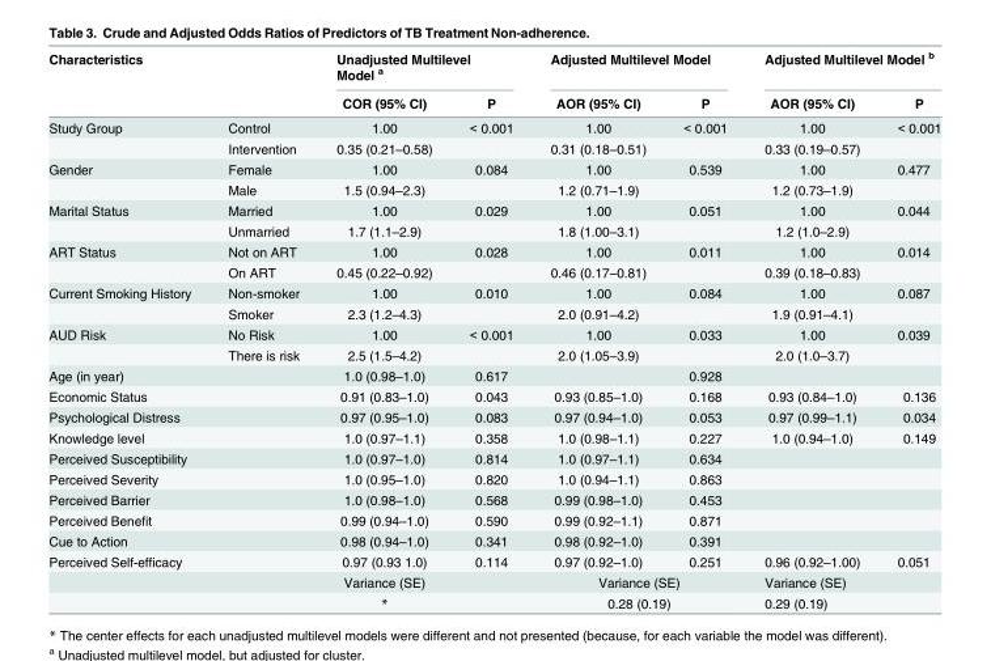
<table><thead><tr><td rowspan="2" colspan="2">Characteristics</td><td colspan="2">Unadjusted Multilevel Model <sup>a</sup></td><td colspan="2">Adjusted Multilevel Model</td><td colspan="2">Adjusted Multilevel Model <sup>b</sup></td></tr><tr><td rowspan="2">COR (95% CI) 1.00</td><td rowspan="2">P &lt; 0.001</td><td rowspan="2">AOR (95% CI) 1.00</td><td rowspan="2">P &lt; 0.001</td><td rowspan="2">AOR (95% CI) 1.00</td><td rowspan="2">P &lt; 0.001</td></tr><tr><td>Study Group</td><td>Control</td></tr></thead><tbody><tr><td></td><td>Intervention</td><td>0.35 (0.21–0.58)</td><td></td><td>0.31 (0.18–0.51)</td><td></td><td>0.33 (0.19–0.57)</td><td></td></tr><tr><td rowspan="2">Gender</td><td>Female</td><td>1.00</td><td>0.084</td><td>1.00</td><td>0.539</td><td>1.00</td><td>0.477</td></tr><tr><td>Male</td><td>1.5 (0.94–2.3)</td><td></td><td>1.2 (0.71–1.9)</td><td></td><td>1.2 (0.73–1.9)</td><td></td></tr><tr><td rowspan="2">Marital Status</td><td>Married</td><td>1.00</td><td>0.029</td><td>1.00</td><td>0.051</td><td>1.00</td><td>0.044</td></tr><tr><td>Unmarried</td><td>1.7 (1.1–2.9)</td><td></td><td>1.8 (1.00–3.1)</td><td></td><td>1.2 (1.0–2.9)</td><td></td></tr><tr><td rowspan="2">ART Status</td><td>Not on ART</td><td>1.00</td><td>0.028</td><td>1.00</td><td>0.011</td><td>1.00</td><td>0.014</td></tr><tr><td>On ART</td><td>0.45 (0.22–0.92)</td><td></td><td>0.46 (0.17–0.81)</td><td></td><td>0.39 (0.18–0.83)</td><td></td></tr><tr><td rowspan="2">Current Smoking History</td><td>Non-smoker</td><td>1.00</td><td>0.010</td><td>1.00</td><td>0.084</td><td>1.00</td><td>0.087</td></tr><tr><td>Smoker</td><td>2.3 (1.2–4.3)</td><td></td><td>2.0 (0.91–4.2)</td><td></td><td>1.9 (0.91–4.1)</td><td></td></tr><tr><td rowspan="2">AUD Risk</td><td>No Risk</td><td>1.00</td><td>&lt; 0.001</td><td>1.00</td><td>0.033</td><td>1.00</td><td>0.039</td></tr><tr><td>There is risk</td><td>2.5 (1.5–4.2)</td><td></td><td>2.0 (1.05–3.9)</td><td></td><td>2.0 (1.0–3.7)</td><td></td></tr><tr><td>Age (in year)</td><td></td><td>1.0 (0.98–1.0)</td><td>0.617</td><td></td><td>0.928</td><td></td><td></td></tr><tr><td>Economic Status</td><td></td><td>0.91 (0.83–1.0)</td><td>0.043</td><td>0.93 (0.85–1.0)</td><td>0.168</td><td>0.93 (0.84–1.0)</td><td>0.136</td></tr><tr><td>Psychological Distress</td><td></td><td>0.97 (0.95–1.0)</td><td>0.083</td><td>0.97 (0.94–1.0)</td><td>0.053</td><td>0.97 (0.99–1.1)</td><td>0.034</td></tr><tr><td>Knowledge level</td><td></td><td>1.0 (0.97–1.1)</td><td>0.358</td><td>1.0 (0.98–1.1)</td><td>0.227</td><td>1.0 (0.94–1.0)</td><td>0.149</td></tr><tr><td>Perceived Susceptibility</td><td></td><td>1.0 (0.97–1.0)</td><td>0.814</td><td>1.0 (0.97–1.1)</td><td>0.634</td><td></td><td></td></tr><tr><td>Perceived Severity</td><td></td><td>1.0 (0.95–1.0)</td><td>0.820</td><td>1.0 (0.94–1.1)</td><td>0.863</td><td></td><td></td></tr><tr><td>Perceived Barrier</td><td></td><td>1.0 (0.98–1.0)</td><td>0.568</td><td>0.99 (0.98–1.0)</td><td>0.453</td><td></td><td></td></tr><tr><td>Perceived Benefit</td><td></td><td>0.99 (0.94–1.0)</td><td>0.590</td><td>0.99 (0.92–1.1)</td><td>0.871</td><td></td><td></td></tr><tr><td>Cue to Action</td><td></td><td>0.98 (0.94–1.0)</td><td>0.341</td><td>0.98 (0.92–1.0)</td><td>0.391</td><td></td><td></td></tr><tr><td rowspan="3">Perceived Self-efficacy</td><td></td><td>0.97 (0.93 1.0)</td><td>0.114</td><td>0.97 (0.92–1.0)</td><td>0.251</td><td>0.96 (0.92–1.00)</td><td>0.051</td></tr><tr><td></td><td>Variance (SE)</td><td></td><td colspan="2">Variance (SE)</td><td colspan="2">Variance (SE)</td></tr><tr><td></td><td>*</td><td></td><td colspan="2">0.28 (0.19)</td><td colspan="2">0.29 (0.19)</td></tr></tbody></table>